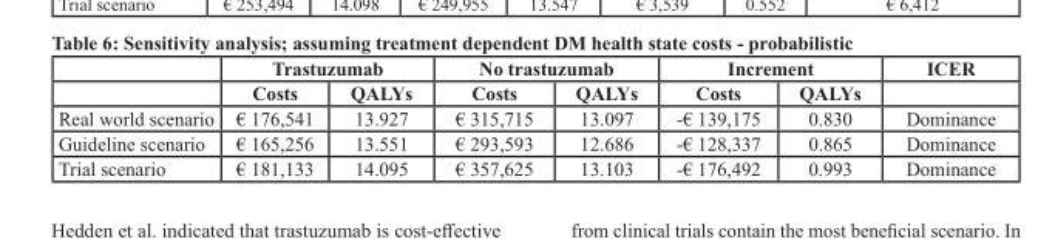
<table><thead><tr><td rowspan="2"></td><td colspan="2">Trastuzumab</td><td colspan="2">No trastuzumab</td><td colspan="2">Increment</td><td rowspan="2">ICER</td></tr><tr><td>Costs</td><td>QALYs</td><td>Costs</td><td>QALYs</td><td>Costs</td><td>QALYs</td></tr></thead><tbody><tr><td>Real world scenario</td><td>€ 176,541</td><td>13.927</td><td>€ 315,715</td><td>13.097</td><td>-€ 139,175</td><td>0.830</td><td>Dominance</td></tr><tr><td>Guideline scenario</td><td>€ 165,256</td><td>13.551</td><td>€ 293,593</td><td>12.686</td><td>-€ 128,337</td><td>0.865</td><td>Dominance</td></tr><tr><td>Trial scenario</td><td>€ 181,133</td><td>14.095</td><td>€ 357,625</td><td>13.103</td><td>-€ 176,492</td><td>0.993</td><td>Dominance</td></tr></tbody></table>